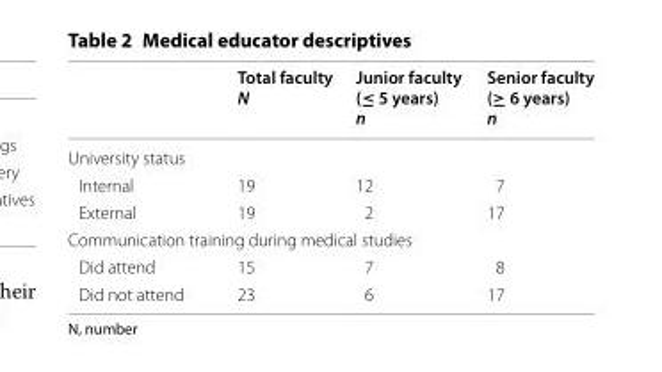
<table><thead><tr><td></td><td>Total faculty N</td><td>Junior faculty (≤ 5 years) n</td><td>Senior faculty (≥ 6 years) n</td></tr></thead><tbody><tr><td colspan="4">University status</td></tr><tr><td>Internal</td><td>19</td><td>12</td><td>7</td></tr><tr><td>External</td><td>19</td><td>2</td><td>17</td></tr><tr><td colspan="4">Communication training during medical studies</td></tr><tr><td>Did attend</td><td>15</td><td>7</td><td>8</td></tr><tr><td>Did not attend</td><td>23</td><td>6</td><td>17</td></tr></tbody></table>